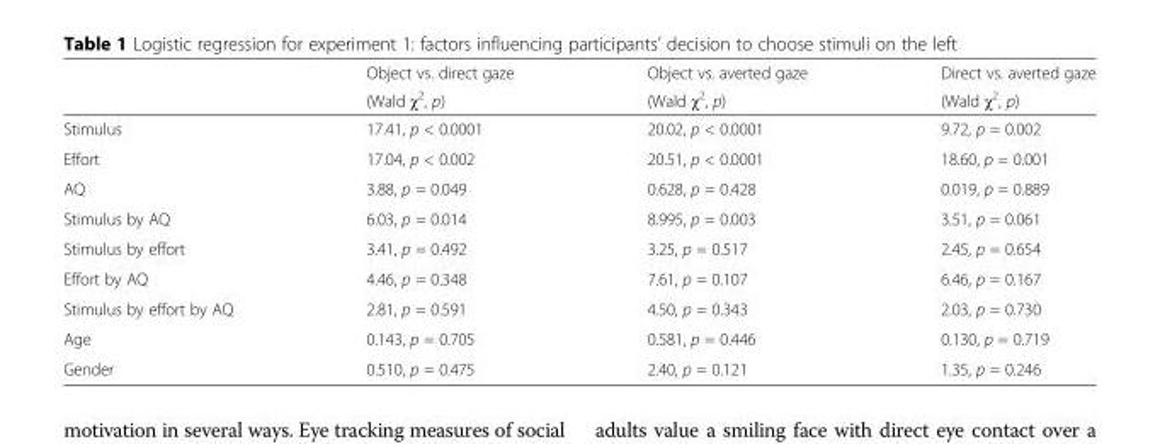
<table><thead><tr><td rowspan="2"></td><td rowspan="2">Object vs. direct gaze (Wald χ<sup>2</sup>, p)</td><td rowspan="2">Object vs. averted gaze (Wald χ<sup>2</sup>, p)</td><td rowspan="2">Direct vs. averted gaze (Wald χ<sup>2</sup>, p)</td></tr><tr></tr></thead><tbody><tr><td>Stimulus</td><td>17.41, p &lt; 0.0001</td><td>20.02, p &lt; 0.0001</td><td>9.72, p = 0.002</td></tr><tr><td>Effort</td><td>17.04, p &lt; 0.002</td><td>20.51, p &lt; 0.0001</td><td>18.60, p = 0.001</td></tr><tr><td>AQ</td><td>3.88, p = 0.049</td><td>0.628, p = 0.428</td><td>0.019, p = 0.889</td></tr><tr><td>Stimulus by AQ</td><td>6.03, p = 0.014</td><td>8.995, p = 0.003</td><td>3.51, p = 0.061</td></tr><tr><td>Stimulus by effort</td><td>3.41, p = 0.492</td><td>3.25, p = 0.517</td><td>2.45, p = 0.654</td></tr><tr><td>Effort by AQ</td><td>4.46, p = 0.348</td><td>7.61, p = 0.107</td><td>6.46, p = 0.167</td></tr><tr><td>Stimulus by effort by AQ</td><td>2.81, p = 0.591</td><td>4.50, p = 0.343</td><td>2.03, p = 0.730</td></tr><tr><td>Age</td><td>0.143, p = 0.705</td><td>0.581, p = 0.446</td><td>0.130, p = 0.719</td></tr><tr><td>Gender</td><td>0.510, p = 0.475</td><td>2.40, p = 0.121</td><td>1.35, p = 0.246</td></tr></tbody></table>